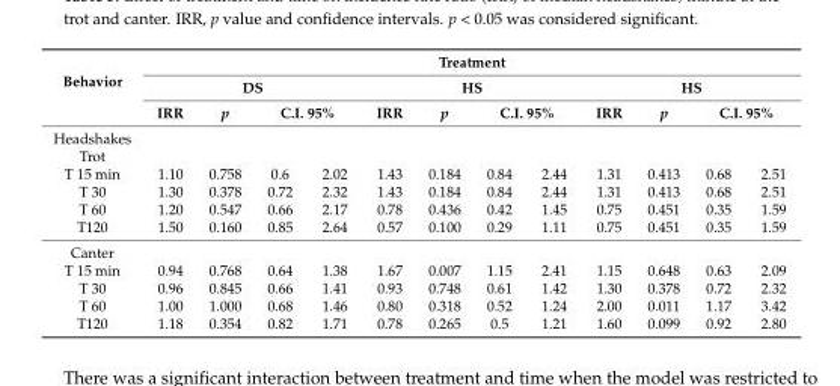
<table><thead><tr><td rowspan="4">Behavior Headshakes</td><td colspan="12">Treatment</td></tr><tr><td colspan="4">DS</td><td colspan="4">HS</td><td colspan="4">HS</td></tr><tr><td rowspan="2">IRR</td><td rowspan="2">p</td><td colspan="2">C.I. 95%</td><td rowspan="2">IRR</td><td rowspan="2">p</td><td colspan="2">C.I. 95%</td><td rowspan="2">IRR</td><td rowspan="2">p</td><td colspan="2">C.I. 95%</td></tr><tr><td></td><td></td><td></td><td></td><td></td><td></td></tr></thead><tbody><tr><td colspan="13">Trot</td></tr><tr><td>T 15 min</td><td>1.10</td><td>0.758</td><td>0.6</td><td>2.02</td><td>1.43</td><td>0.184</td><td>0.84</td><td>2.44</td><td>1.31</td><td>0.413</td><td>0.68</td><td>2.51</td></tr><tr><td>T 30</td><td>1.30</td><td>0.378</td><td>0.72</td><td>2.32</td><td>1.43</td><td>0.184</td><td>0.84</td><td>2.44</td><td>1.31</td><td>0.413</td><td>0.68</td><td>2.51</td></tr><tr><td>T 60</td><td>1.20</td><td>0.547</td><td>0.66</td><td>2.17</td><td>0.78</td><td>0.436</td><td>0.42</td><td>1.45</td><td>0.75</td><td>0.451</td><td>0.35</td><td>1.59</td></tr><tr><td>T120</td><td>1.50</td><td>0.160</td><td>0.85</td><td>2.64</td><td>0.57</td><td>0.100</td><td>0.29</td><td>1.11</td><td>0.75</td><td>0.451</td><td>0.35</td><td>1.59</td></tr><tr><td colspan="13">Canter</td></tr><tr><td>T 15 min</td><td>0.94</td><td>0.768</td><td>0.64</td><td>1.38</td><td>1.67</td><td>0.007</td><td>1.15</td><td>2.41</td><td>1.15</td><td>0.648</td><td>0.63</td><td>2.09</td></tr><tr><td>T 30</td><td>0.96</td><td>0.845</td><td>0.66</td><td>1.41</td><td>0.93</td><td>0.748</td><td>0.61</td><td>1.42</td><td>1.30</td><td>0.378</td><td>0.72</td><td>2.32</td></tr><tr><td>T 60</td><td>1.00</td><td>1.000</td><td>0.68</td><td>1.46</td><td>0.80</td><td>0.318</td><td>0.52</td><td>1.24</td><td>2.00</td><td>0.011</td><td>1.17</td><td>3.42</td></tr><tr><td>T120</td><td>1.18</td><td>0.354</td><td>0.82</td><td>1.71</td><td>0.78</td><td>0.265</td><td>0.5</td><td>1.21</td><td>1.60</td><td>0.099</td><td>0.92</td><td>2.80</td></tr></tbody></table>